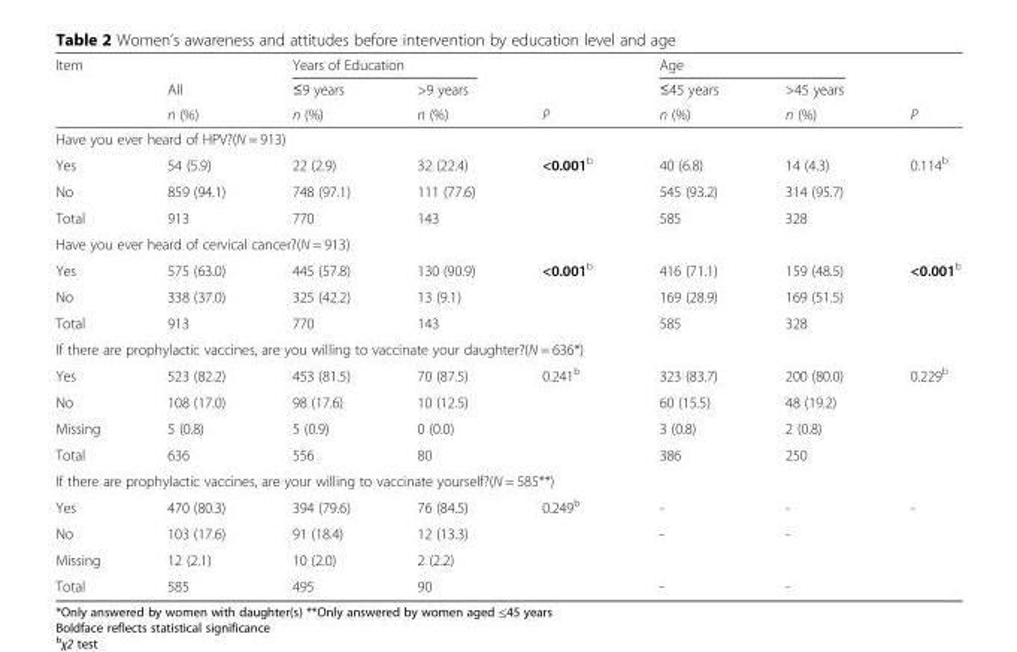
<table><thead><tr><td rowspan="3">Item</td><td rowspan="3">All n (%)</td><td colspan="2">Years of Education</td><td rowspan="3">P</td><td colspan="2">Age</td><td rowspan="3">P</td></tr><tr><td rowspan="2">≤9 years n (%)</td><td rowspan="2">&gt;9 years n (%)</td><td rowspan="2">≤45 years n (%)</td><td rowspan="2">&gt;45 years n (%)</td></tr><tr></tr></thead><tbody><tr><td colspan="8">Have you ever heard of HPV?(N = 913)</td></tr><tr><td>Yes</td><td>54 (5.9)</td><td>22 (2.9)</td><td>32 (22.4)</td><td rowspan="2">&lt;0.001<sup>b</sup></td><td>40 (6.8)</td><td>14 (4.3)</td><td rowspan="2">0.114<sup>b</sup></td></tr><tr><td>No</td><td>859 (94.1)</td><td>748 (97.1)</td><td>111 (77.6)</td><td>545 (93.2)</td><td>314 (95.7)</td></tr><tr><td>Total</td><td>913</td><td>770</td><td>143</td><td></td><td>585</td><td>328</td><td></td></tr><tr><td colspan="8">Have you ever heard of cervical cancer?(N = 913)</td></tr><tr><td>Yes</td><td>575 (63.0)</td><td>445 (57.8)</td><td>130 (90.9)</td><td rowspan="2">&lt;0.001<sup>b</sup></td><td>416 (71.1)</td><td>159 (48.5)</td><td rowspan="2">&lt;0.001<sup>b</sup></td></tr><tr><td>No</td><td>338 (37.0)</td><td>325 (42.2)</td><td>13 (9.1)</td><td>169 (28.9)</td><td>169 (51.5)</td></tr><tr><td>Total</td><td>913</td><td>770</td><td>143</td><td></td><td>585</td><td>328</td><td></td></tr><tr><td colspan="8">If there are prophylactic vaccines, are you willing to vaccinate your daughter?(N = 636*)</td></tr><tr><td>Yes</td><td>523 (82.2)</td><td>453 (81.5)</td><td>70 (87.5)</td><td rowspan="2">0.241<sup>b</sup></td><td>323 (83.7)</td><td>200 (80.0)</td><td rowspan="2">0.229<sup>b</sup></td></tr><tr><td>No</td><td>108 (17.0)</td><td>98 (17.6)</td><td>10 (12.5)</td><td>60 (15.5)</td><td>48 (19.2)</td></tr><tr><td>Missing</td><td>5 (0.8)</td><td>5 (0.9)</td><td>0 (0.0)</td><td></td><td>3 (0.8)</td><td>2 (0.8)</td><td></td></tr><tr><td>Total</td><td>636</td><td>556</td><td>80</td><td></td><td>386</td><td>250</td><td></td></tr><tr><td colspan="8">If there are prophylactic vaccines, are your willing to vaccinate yourself?(N = 585**)</td></tr><tr><td>Yes</td><td>470 (80.3)</td><td>394 (79.6)</td><td>76 (84.5)</td><td rowspan="2">0.249<sup>b</sup></td><td>-</td><td>-</td><td rowspan="2">-</td></tr><tr><td>No</td><td>103 (17.6)</td><td>91 (18.4)</td><td>12 (13.3)</td><td>-</td><td>-</td></tr><tr><td>Missing</td><td>12 (2.1)</td><td>10 (2.0)</td><td>2 (2.2)</td><td></td><td></td><td></td><td></td></tr><tr><td>Total</td><td>585</td><td>495</td><td>90</td><td></td><td>-</td><td>-</td><td></td></tr></tbody></table>